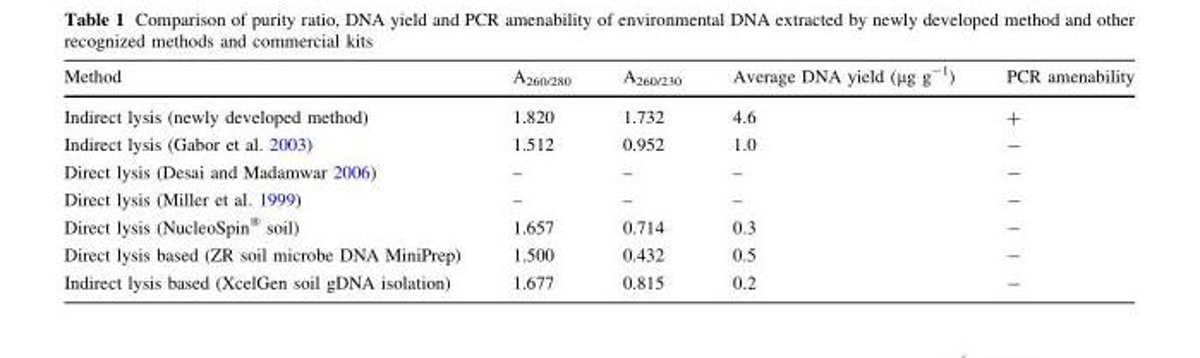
<table><thead><tr><td>Method</td><td>A<sub>260/280</sub></td><td>A<sub>260/230</sub></td><td>Average DNA yield (µg g<sup>-1</sup>)</td><td>PCR amenability</td></tr></thead><tbody><tr><td>Indirect lysis (newly developed method)</td><td>1.820</td><td>1.732</td><td>4.6</td><td>+</td></tr><tr><td>Indirect lysis (Gabor et al. 2003)</td><td>1.512</td><td>0.952</td><td>1.0</td><td>-</td></tr><tr><td>Direct lysis (Desai and Madamwar 2006)</td><td>–</td><td>–</td><td>–</td><td>-</td></tr><tr><td>Direct lysis (Miller et al. 1999)</td><td>–</td><td>–</td><td>–</td><td>-</td></tr><tr><td>Direct lysis (NucleoSpin<sup>®</sup> soil)</td><td>1.657</td><td>0.714</td><td>0.3</td><td>-</td></tr><tr><td>Direct lysis based (ZR soil microbe DNA MiniPrep)</td><td>1.500</td><td>0.432</td><td>0.5</td><td>-</td></tr><tr><td>Indirect lysis based (XcelGen soil gDNA isolation)</td><td>1.677</td><td>0.815</td><td>0.2</td><td>-</td></tr></tbody></table>